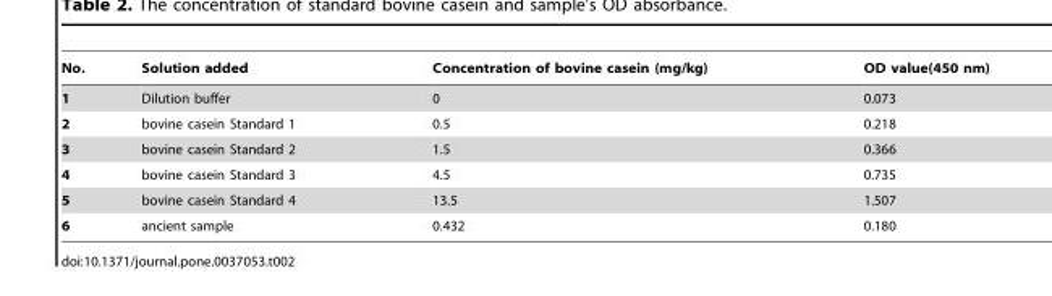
<table><thead><tr><td>No.</td><td>Solution added</td><td>Concentration of bovine casein (mg/kg)</td><td>OD value(450 nm)</td></tr></thead><tbody><tr><td>1</td><td>Dilution buffer</td><td>0</td><td>0.073</td></tr><tr><td>2</td><td>bovine casein Standard 1</td><td>0.5</td><td>0.218</td></tr><tr><td>3</td><td>bovine casein Standard 2</td><td>1.5</td><td>0.366</td></tr><tr><td>4</td><td>bovine casein Standard 3</td><td>4.5</td><td>0.735</td></tr><tr><td>5</td><td>bovine casein Standard 4</td><td>13.5</td><td>1.507</td></tr><tr><td>6</td><td>ancient sample</td><td>0.432</td><td>0.180</td></tr></tbody></table>